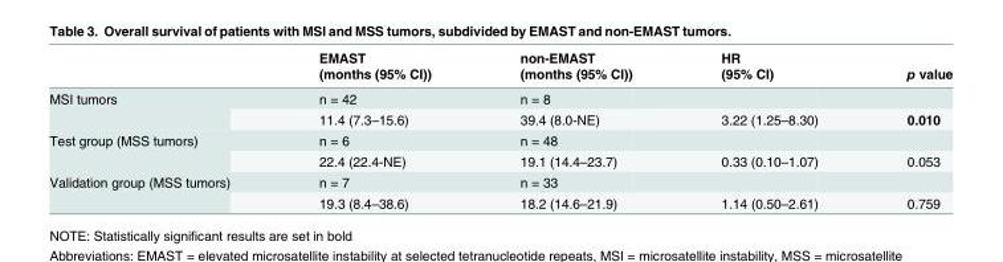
<table><thead><tr><td rowspan="2"></td><td rowspan="2">EMAST (months (95% CI))</td><td rowspan="2">non-EMAST (months (95% CI))</td><td rowspan="2">HR (95% CI)</td><td rowspan="2">p value</td></tr><tr></tr></thead><tbody><tr><td rowspan="2">MSI tumors</td><td>n = 42</td><td>n = 8</td><td></td><td></td></tr><tr><td>11.4 (7.3–15.6)</td><td>39.4 (8.0-NE)</td><td>3.22 (1.25–8.30)</td><td>0.010</td></tr><tr><td rowspan="2">Test group (MSS tumors)</td><td>n = 6</td><td>n = 48</td><td></td><td></td></tr><tr><td>22.4 (22.4-NE)</td><td>19.1 (14.4–23.7)</td><td>0.33 (0.10–1.07)</td><td>0.053</td></tr><tr><td rowspan="2">Validation group (MSS tumors)</td><td>n = 7</td><td>n = 33</td><td></td><td></td></tr><tr><td>19.3 (8.4–38.6)</td><td>18.2 (14.6–21.9)</td><td>1.14 (0.50–2.61)</td><td>0.759</td></tr></tbody></table>